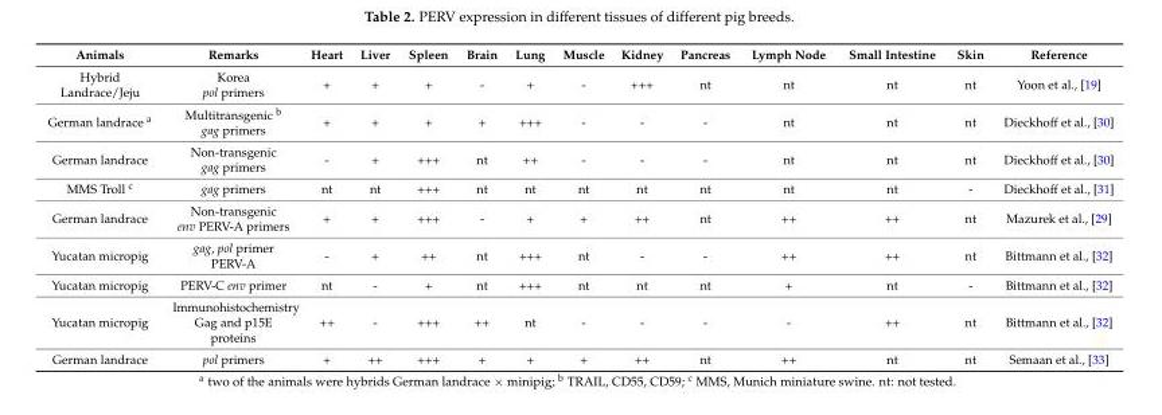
<table><thead><tr><td>Animals</td><td>Remarks</td><td>Heart</td><td>Liver</td><td>Spleen</td><td>Brain</td><td>Lung</td><td>Muscle</td><td>Kidney</td><td>Pancreas</td><td>Lymph Node</td><td>Small Intestine</td><td>Skin</td><td>Reference</td></tr></thead><tbody><tr><td>Hybrid Landrace/Jeju</td><td>Korea pol primers</td><td>+</td><td>+</td><td>+</td><td>-</td><td>+</td><td>-</td><td>+++</td><td>nt</td><td>nt</td><td>nt</td><td>nt</td><td>Yoon et al., [19]</td></tr><tr><td>German landrace <sup>a</sup></td><td>Multitransgenic <sup>b</sup> gag primers</td><td>+</td><td>+</td><td>+</td><td>+</td><td>+++</td><td>-</td><td>-</td><td>-</td><td>nt</td><td>nt</td><td>nt</td><td>Dieckhoff et al., [30]</td></tr><tr><td>German landrace</td><td>Non-transgenic gag primers</td><td>-</td><td>+</td><td>+++</td><td>nt</td><td>++</td><td>-</td><td>-</td><td>-</td><td>nt</td><td>nt</td><td>nt</td><td>Dieckhoff et al., [30]</td></tr><tr><td>MMS Troll <sup>c</sup></td><td>gag primers</td><td>nt</td><td>nt</td><td>+++</td><td>nt</td><td>nt</td><td>nt</td><td>nt</td><td>nt</td><td>nt</td><td>nt</td><td>-</td><td>Dieckhoff et al., [31]</td></tr><tr><td>German landrace</td><td>Non-transgenic env PERV-A primers</td><td>+</td><td>+</td><td>+++</td><td>-</td><td>+</td><td>+</td><td>++</td><td>nt</td><td>++</td><td>++</td><td>nt</td><td>Mazurek et al., [29]</td></tr><tr><td>Yucatan micropig</td><td>gag, pol primer PERV-A</td><td>-</td><td>+</td><td>++</td><td>nt</td><td>+++</td><td>nt</td><td>-</td><td>-</td><td>++</td><td>++</td><td>nt</td><td>Bittmann et al., [32]</td></tr><tr><td>Yucatan micropig</td><td>PERV-C env primer</td><td>nt</td><td>-</td><td>+</td><td>nt</td><td>+++</td><td>nt</td><td>nt</td><td>nt</td><td>+</td><td>nt</td><td>-</td><td>Bittmann et al., [32]</td></tr><tr><td>Yucatan micropig</td><td>Immunohistochemistry Gag and p15E proteins</td><td>++</td><td>-</td><td>+++</td><td>++</td><td>nt</td><td>-</td><td>-</td><td>-</td><td>-</td><td>++</td><td>nt</td><td>Bittmann et al., [32]</td></tr><tr><td>German landrace</td><td>pol primers</td><td>+</td><td>++</td><td>+++</td><td>+</td><td>+</td><td>+</td><td>++</td><td>nt</td><td>++</td><td>nt</td><td>nt</td><td>Semaan et al., [33]</td></tr></tbody></table>